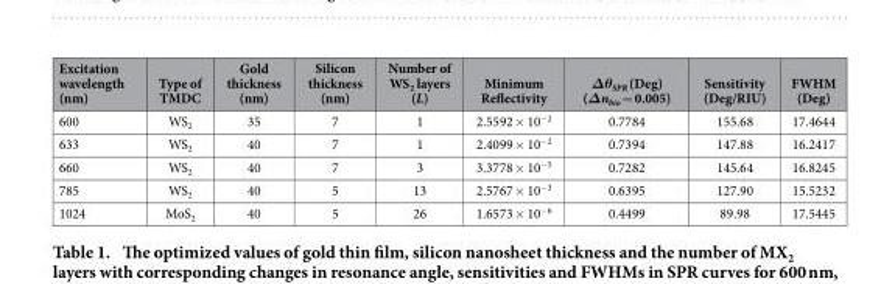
<table><thead><tr><td>Excitation wavelength (nm)</td><td>Type of TMDC</td><td>Gold thickness (nm)</td><td>Silicon thickness (nm)</td><td>Number of WS<sub>2</sub> layers (L)</td><td>Minimum Reflectivity</td><td>Δθ<sub>SPR</sub> (Deg) (Δn<sub>bio</sub> = 0.005)</td><td>Sensitivity (Deg/RIU)</td><td>FWHM (Deg)</td></tr></thead><tbody><tr><td>600</td><td>WS<sub>2</sub></td><td>35</td><td>7</td><td>1</td><td>2.5592 × 10<sup>−2</sup></td><td>0.7784</td><td>155.68</td><td>17.4644</td></tr><tr><td>633</td><td>WS<sub>2</sub></td><td>40</td><td>7</td><td>1</td><td>2.4099 × 10<sup>−2</sup></td><td>0.7394</td><td>147.88</td><td>16.2417</td></tr><tr><td>660</td><td>WS<sub>2</sub></td><td>40</td><td>7</td><td>3</td><td>3.3778 × 10<sup>−5</sup></td><td>0.7282</td><td>145.64</td><td>16.8245</td></tr><tr><td>785</td><td>WS<sub>2</sub></td><td>40</td><td>5</td><td>13</td><td>2.5767 × 10<sup>−3</sup></td><td>0.6395</td><td>127.90</td><td>15.5232</td></tr><tr><td>1024</td><td>MoS<sub>2</sub></td><td>40</td><td>5</td><td>26</td><td>1.6573 × 10<sup>−6</sup></td><td>0.4499</td><td>89.98</td><td>17.5445</td></tr></tbody></table>